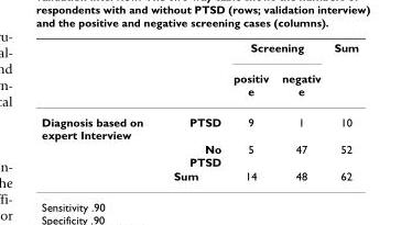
<table><thead><tr><td rowspan="2"></td><td rowspan="2"></td><td colspan="2">Screening</td><td rowspan="2">Sum</td></tr><tr><td>positiv e</td><td>negativ e</td></tr></thead><tbody><tr><td rowspan="3">Diagnosis based on expert Interview</td><td>PTSD</td><td>9</td><td>1</td><td>10</td></tr><tr><td>No PTSD</td><td>5</td><td>47</td><td>52</td></tr><tr><td>Sum</td><td>14</td><td>48</td><td>62</td></tr></tbody></table>